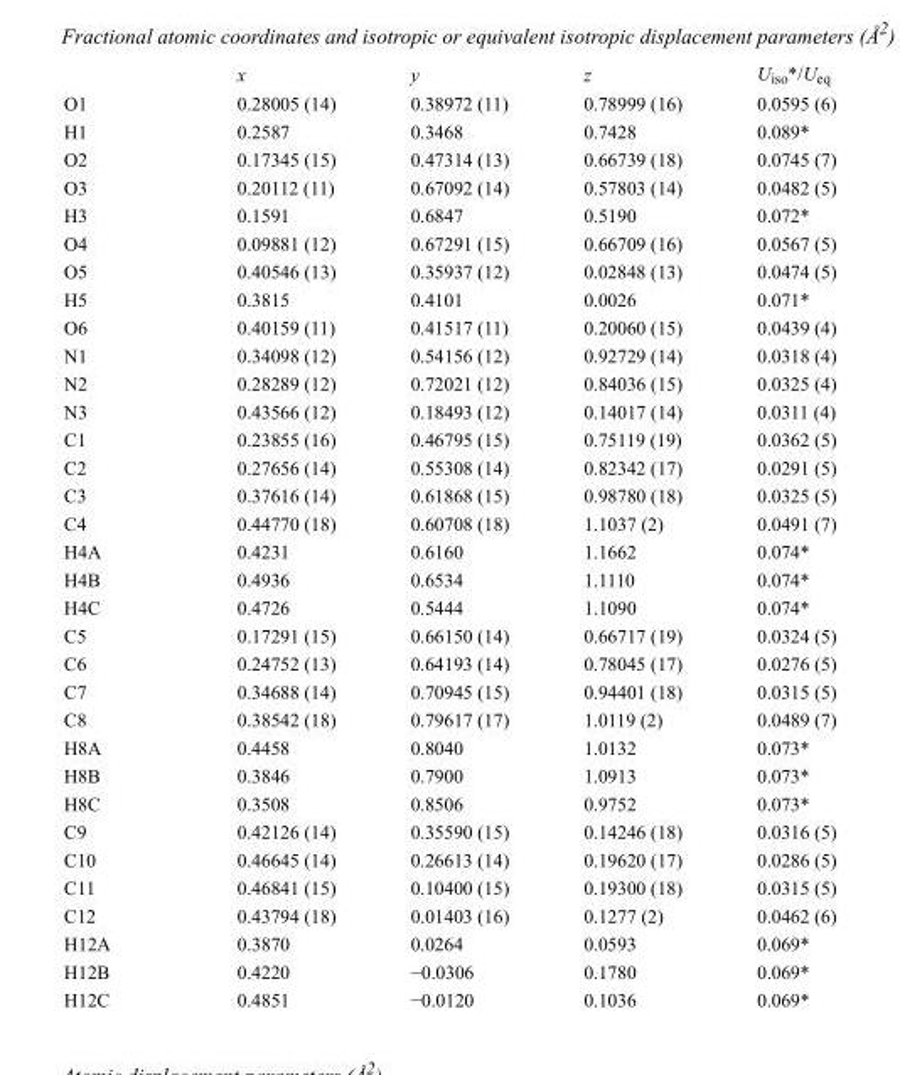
<table><thead><tr><td></td><td>x</td><td>y</td><td>z</td><td>U<sub>iso</sub>*/U<sub>eq</sub></td></tr></thead><tbody><tr><td>O1</td><td>0.28005 (14)</td><td>0.38972 (11)</td><td>0.78999 (16)</td><td>0.0595 (6)</td></tr><tr><td>H1</td><td>0.2587</td><td>0.3468</td><td>0.7428</td><td>0.089*</td></tr><tr><td>O2</td><td>0.17345 (15)</td><td>0.47314 (13)</td><td>0.66739 (18)</td><td>0.0745 (7)</td></tr><tr><td>O3</td><td>0.20112 (11)</td><td>0.67092 (14)</td><td>0.57803 (14)</td><td>0.0482 (5)</td></tr><tr><td>H3</td><td>0.1591</td><td>0.6847</td><td>0.5190</td><td>0.072*</td></tr><tr><td>O4</td><td>0.09881 (12)</td><td>0.67291 (15)</td><td>0.66709 (16)</td><td>0.0567 (5)</td></tr><tr><td>O5</td><td>0.40546 (13)</td><td>0.35937 (12)</td><td>0.02848 (13)</td><td>0.0474 (5)</td></tr><tr><td>H5</td><td>0.3815</td><td>0.4101</td><td>0.0026</td><td>0.071*</td></tr><tr><td>O6</td><td>0.40159 (11)</td><td>0.41517 (11)</td><td>0.20060 (15)</td><td>0.0439 (4)</td></tr><tr><td>N1</td><td>0.34098 (12)</td><td>0.54156 (12)</td><td>0.92729 (14)</td><td>0.0318 (4)</td></tr><tr><td>N2</td><td>0.28289 (12)</td><td>0.72021 (12)</td><td>0.84036 (15)</td><td>0.0325 (4)</td></tr><tr><td>N3</td><td>0.43566 (12)</td><td>0.18493 (12)</td><td>0.14017 (14)</td><td>0.0311 (4)</td></tr><tr><td>C1</td><td>0.23855 (16)</td><td>0.46795 (15)</td><td>0.75119 (19)</td><td>0.0362 (5)</td></tr><tr><td>C2</td><td>0.27656 (14)</td><td>0.55308 (14)</td><td>0.82342 (17)</td><td>0.0291 (5)</td></tr><tr><td>C3</td><td>0.37616 (14)</td><td>0.61868 (15)</td><td>0.98780 (18)</td><td>0.0325 (5)</td></tr><tr><td>C4</td><td>0.44770 (18)</td><td>0.60708 (18)</td><td>1.1037 (2)</td><td>0.0491 (7)</td></tr><tr><td>H4A</td><td>0.4231</td><td>0.6160</td><td>1.1662</td><td>0.074*</td></tr><tr><td>H4B</td><td>0.4936</td><td>0.6534</td><td>1.1110</td><td>0.074*</td></tr><tr><td>H4C</td><td>0.4726</td><td>0.5444</td><td>1.1090</td><td>0.074*</td></tr><tr><td>C5</td><td>0.17291 (15)</td><td>0.66150 (14)</td><td>0.66717 (19)</td><td>0.0324 (5)</td></tr><tr><td>C6</td><td>0.24752 (13)</td><td>0.64193 (14)</td><td>0.78045 (17)</td><td>0.0276 (5)</td></tr><tr><td>C7</td><td>0.34688 (14)</td><td>0.70945 (15)</td><td>0.94401 (18)</td><td>0.0315 (5)</td></tr><tr><td>C8</td><td>0.38542 (18)</td><td>0.79617 (17)</td><td>1.0119 (2)</td><td>0.0489 (7)</td></tr><tr><td>H8A</td><td>0.4458</td><td>0.8040</td><td>1.0132</td><td>0.073*</td></tr><tr><td>H8B</td><td>0.3846</td><td>0.7900</td><td>1.0913</td><td>0.073*</td></tr><tr><td>H8C</td><td>0.3508</td><td>0.8506</td><td>0.9752</td><td>0.073*</td></tr><tr><td>C9</td><td>0.42126 (14)</td><td>0.35590 (15)</td><td>0.14246 (18)</td><td>0.0316 (5)</td></tr><tr><td>C10</td><td>0.46645 (14)</td><td>0.26613 (14)</td><td>0.19620 (17)</td><td>0.0286 (5)</td></tr><tr><td>C11</td><td>0.46841 (15)</td><td>0.10400 (15)</td><td>0.19300 (18)</td><td>0.0315 (5)</td></tr><tr><td>C12</td><td>0.43794 (18)</td><td>0.01403 (16)</td><td>0.1277 (2)</td><td>0.0462 (6)</td></tr><tr><td>H12A</td><td>0.3870</td><td>0.0264</td><td>0.0593</td><td>0.069*</td></tr><tr><td>H12B</td><td>0.4220</td><td>−0.0306</td><td>0.1780</td><td>0.069*</td></tr><tr><td>H12C</td><td>0.4851</td><td>−0.0120</td><td>0.1036</td><td>0.069*</td></tr></tbody></table>